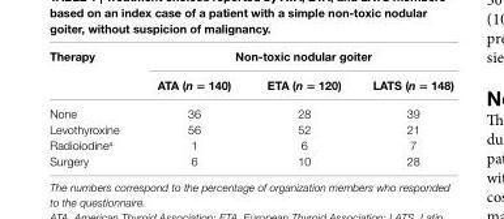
<table><thead><tr><td rowspan="2">Therapy</td><td colspan="3">Non-toxic nodular goiter</td></tr><tr><td>ATA (n = 140)</td><td>eTA (n = 120)</td><td>LATS (n = 148)</td></tr></thead><tbody><tr><td>None</td><td>36</td><td>28</td><td>39</td></tr><tr><td>Levothyroxine</td><td>56</td><td>52</td><td>21</td></tr><tr><td>Radioiodine<sup>a</sup></td><td>1</td><td>6</td><td>7</td></tr><tr><td>Surgery</td><td>6</td><td>10</td><td>28</td></tr></tbody></table>